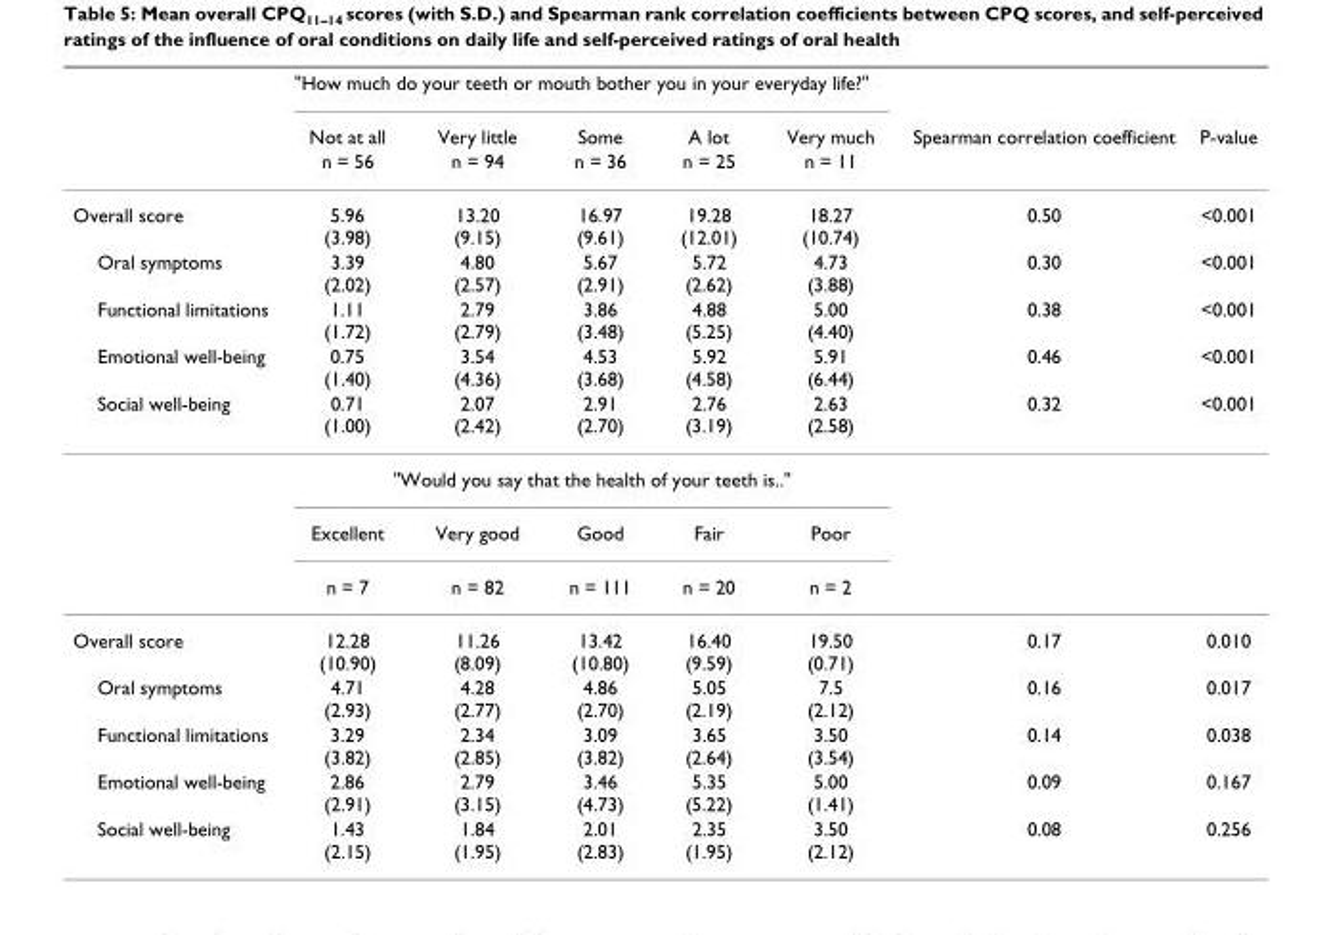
<table><thead><tr><td rowspan="3"></td><td colspan="5">&quot;How much do your teeth or mouth bother you in your everyday life?&quot;</td><td rowspan="3">Spearman correlation coefficient</td><td rowspan="3">P-value</td></tr><tr><td rowspan="2">Not at all n = 56</td><td rowspan="2">Very little n = 94</td><td rowspan="2">Some n = 36</td><td rowspan="2">A lot n = 25</td><td rowspan="2">Very much n = 11</td></tr><tr></tr></thead><tbody><tr><td>Overall score</td><td>5.96 (3.98)</td><td>13.20 (9.15)</td><td>16.97 (9.61)</td><td>19.28 (12.01)</td><td>18.27 (10.74)</td><td>0.50</td><td>&lt;0.001</td></tr><tr><td>Oral symptoms</td><td>3.39 (2.02)</td><td>4.80 (2.57)</td><td>5.67 (2.91)</td><td>5.72 (2.62)</td><td>4.73 (3.88)</td><td>0.30</td><td>&lt;0.001</td></tr><tr><td>Functional limitations</td><td>1.11 (1.72)</td><td>2.79 (2.79)</td><td>3.86 (3.48)</td><td>4.88 (5.25)</td><td>5.00 (4.40)</td><td>0.38</td><td>&lt;0.001</td></tr><tr><td>Emotional well-being</td><td>0.75 (1.40)</td><td>3.54 (4.36)</td><td>4.53 (3.68)</td><td>5.92 (4.58)</td><td>5.91 (6.44)</td><td>0.46</td><td>&lt;0.001</td></tr><tr><td rowspan="4">Social well-being</td><td>0.71 (1.00)</td><td>2.07 (2.42)</td><td>2.91 (2.70)</td><td>2.76 (3.19)</td><td>2.63 (2.58)</td><td>0.32</td><td>&lt;0.001</td></tr><tr><td colspan="5">&quot;Would you say that the health of your teeth is..&quot;</td><td></td><td></td></tr><tr><td>Excellent</td><td>Very good</td><td>Good</td><td>Fair</td><td>Poor</td><td></td><td></td></tr><tr><td>n = 7</td><td>n = 82</td><td>n = 111</td><td>n = 20</td><td>n = 2</td><td></td><td></td></tr><tr><td>Overall score</td><td>12.28 (10.90)</td><td>11.26 (8.09)</td><td>13.42 (10.80)</td><td>16.40 (9.59)</td><td>19.50 (0.71)</td><td>0.17</td><td>0.010</td></tr><tr><td>Oral symptoms</td><td>4.71 (2.93)</td><td>4.28 (2.77)</td><td>4.86 (2.70)</td><td>5.05 (2.19)</td><td>7.5 (2.12)</td><td>0.16</td><td>0.017</td></tr><tr><td>Functional limitations</td><td>3.29 (3.82)</td><td>2.34 (2.85)</td><td>3.09 (3.82)</td><td>3.65 (2.64)</td><td>3.50 (3.54)</td><td>0.14</td><td>0.038</td></tr><tr><td>Emotional well-being</td><td>2.86 (2.91)</td><td>2.79 (3.15)</td><td>3.46 (4.73)</td><td>5.35 (5.22)</td><td>5.00 (1.41)</td><td>0.09</td><td>0.167</td></tr><tr><td>Social well-being</td><td>1.43 (2.15)</td><td>1.84 (1.95)</td><td>2.01 (2.83)</td><td>2.35 (1.95)</td><td>3.50 (2.12)</td><td>0.08</td><td>0.256</td></tr></tbody></table>